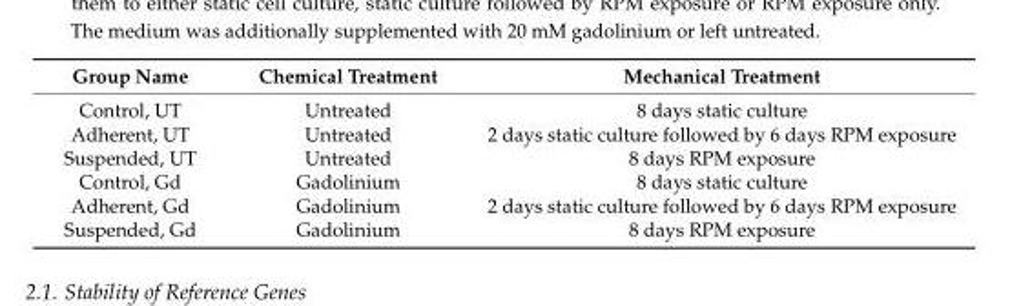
<table><thead><tr><td>Group Name</td><td>Chemical Treatment</td><td>Mechanical Treatment</td></tr></thead><tbody><tr><td>Control, UT</td><td>Untreated</td><td>8 days static culture</td></tr><tr><td>Adherent, UT</td><td>Untreated</td><td>2 days static culture followed by 6 days RPM exposure</td></tr><tr><td>Suspended, UT</td><td>Untreated</td><td>8 days RPM exposure</td></tr><tr><td>Control, Gd</td><td>Gadolinium</td><td>8 days static culture</td></tr><tr><td>Adherent, Gd</td><td>Gadolinium</td><td>2 days static culture followed by 6 days RPM exposure</td></tr><tr><td>Suspended, Gd</td><td>Gadolinium</td><td>8 days RPM exposure</td></tr></tbody></table>